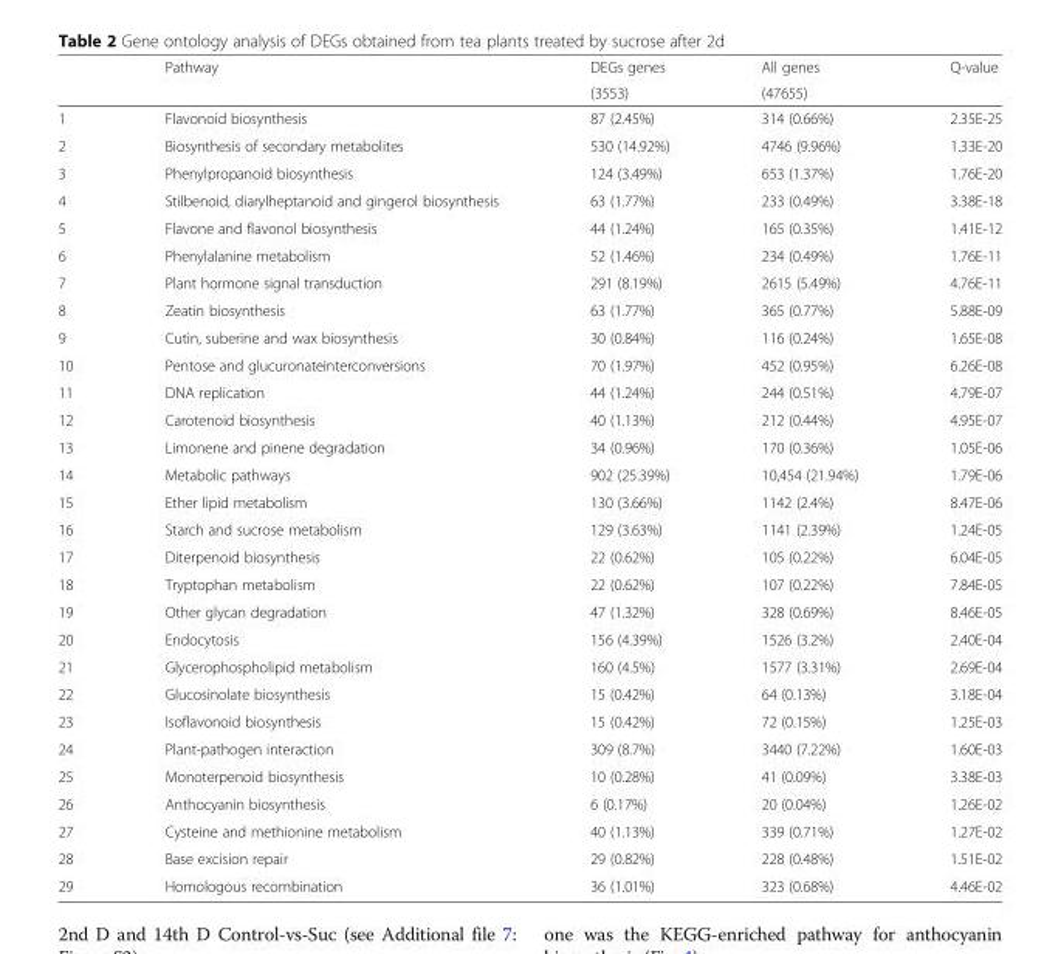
<table><thead><tr><td rowspan="2"></td><td rowspan="2">Pathway</td><td rowspan="2">DEGs genes (3553)</td><td rowspan="2">All genes (47655)</td><td rowspan="2">Q-value</td></tr><tr></tr></thead><tbody><tr><td>1</td><td>Flavonoid biosynthesis</td><td>87 (2.45%)</td><td>314 (0.66%)</td><td>2.35E-25</td></tr><tr><td>2</td><td>Biosynthesis of secondary metabolites</td><td>530 (14.92%)</td><td>4746 (9.96%)</td><td>1.33E-20</td></tr><tr><td>3</td><td>Phenylpropanoid biosynthesis</td><td>124 (3.49%)</td><td>653 (1.37%)</td><td>1.76E-20</td></tr><tr><td>4</td><td>Stilbenoid, diarylheptanoid and gingerol biosynthesis</td><td>63 (1.77%)</td><td>233 (0.49%)</td><td>3.38E-18</td></tr><tr><td>5</td><td>Flavone and flavonol biosynthesis</td><td>44 (1.24%)</td><td>165 (0.35%)</td><td>1.41E-12</td></tr><tr><td>6</td><td>Phenylalanine metabolism</td><td>52 (1.46%)</td><td>234 (0.49%)</td><td>1.76E-11</td></tr><tr><td>7</td><td>Plant hormone signal transduction</td><td>291 (8.19%)</td><td>2615 (5.49%)</td><td>4.76E-11</td></tr><tr><td>8</td><td>Zeatin biosynthesis</td><td>63 (1.77%)</td><td>365 (0.77%)</td><td>5.88E-09</td></tr><tr><td>9</td><td>Cutin, suberine and wax biosynthesis</td><td>30 (0.84%)</td><td>116 (0.24%)</td><td>1.65E-08</td></tr><tr><td>10</td><td>Pentose and glucuronateinterconversions</td><td>70 (1.97%)</td><td>452 (0.95%)</td><td>6.26E-08</td></tr><tr><td>11</td><td>DNA replication</td><td>44 (1.24%)</td><td>244 (0.51%)</td><td>4.79E-07</td></tr><tr><td>12</td><td>Carotenoid biosynthesis</td><td>40 (1.13%)</td><td>212 (0.44%)</td><td>4.95E-07</td></tr><tr><td>13</td><td>Limonene and pinene degradation</td><td>34 (0.96%)</td><td>170 (0.36%)</td><td>1.05E-06</td></tr><tr><td>14</td><td>Metabolic pathways</td><td>902 (25.39%)</td><td>10,454 (21.94%)</td><td>1.79E-06</td></tr><tr><td>15</td><td>Ether lipid metabolism</td><td>130 (3.66%)</td><td>1142 (2.4%)</td><td>8.47E-06</td></tr><tr><td>16</td><td>Starch and sucrose metabolism</td><td>129 (3.63%)</td><td>1141 (2.39%)</td><td>1.24E-05</td></tr><tr><td>17</td><td>Diterpenoid biosynthesis</td><td>22 (0.62%)</td><td>105 (0.22%)</td><td>6.04E-05</td></tr><tr><td>18</td><td>Tryptophan metabolism</td><td>22 (0.62%)</td><td>107 (0.22%)</td><td>7.84E-05</td></tr><tr><td>19</td><td>Other glycan degradation</td><td>47 (1.32%)</td><td>328 (0.69%)</td><td>8.46E-05</td></tr><tr><td>20</td><td>Endocytosis</td><td>156 (4.39%)</td><td>1526 (3.2%)</td><td>2.40E-04</td></tr><tr><td>21</td><td>Glycerophospholipid metabolism</td><td>160 (4.5%)</td><td>1577 (3.31%)</td><td>2.69E-04</td></tr><tr><td>22</td><td>Glucosinolate biosynthesis</td><td>15 (0.42%)</td><td>64 (0.13%)</td><td>3.18E-04</td></tr><tr><td>23</td><td>Isoflavonoid biosynthesis</td><td>15 (0.42%)</td><td>72 (0.15%)</td><td>1.25E-03</td></tr><tr><td>24</td><td>Plant-pathogen interaction</td><td>309 (8.7%)</td><td>3440 (7.22%)</td><td>1.60E-03</td></tr><tr><td>25</td><td>Monoterpenoid biosynthesis</td><td>10 (0.28%)</td><td>41 (0.09%)</td><td>3.38E-03</td></tr><tr><td>26</td><td>Anthocyanin biosynthesis</td><td>6 (0.17%)</td><td>20 (0.04%)</td><td>1.26E-02</td></tr><tr><td>27</td><td>Cysteine and methionine metabolism</td><td>40 (1.13%)</td><td>339 (0.71%)</td><td>1.27E-02</td></tr><tr><td>28</td><td>Base excision repair</td><td>29 (0.82%)</td><td>228 (0.48%)</td><td>1.51E-02</td></tr><tr><td>29</td><td>Homologous recombination</td><td>36 (1.01%)</td><td>323 (0.68%)</td><td>4.46E-02</td></tr></tbody></table>